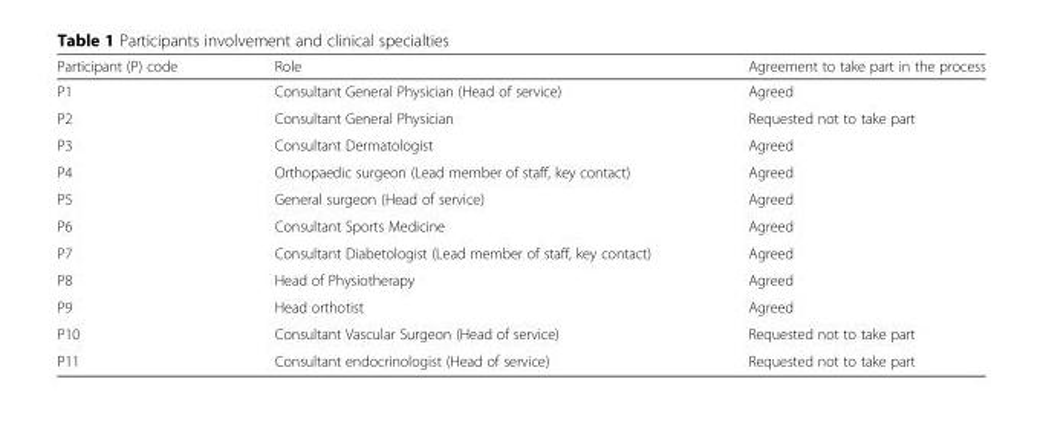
<table><thead><tr><td>Participant (P) code</td><td>Role</td><td>Agreement to take part in the process</td></tr></thead><tbody><tr><td>P1</td><td>Consultant General Physician (Head of service)</td><td>Agreed</td></tr><tr><td>P2</td><td>Consultant General Physician</td><td>Requested not to take part</td></tr><tr><td>P3</td><td>Consultant Dermatologist</td><td>Agreed</td></tr><tr><td>P4</td><td>Orthopaedic surgeon (Lead member of staff, key contact)</td><td>Agreed</td></tr><tr><td>P5</td><td>General surgeon (Head of service)</td><td>Agreed</td></tr><tr><td>P6</td><td>Consultant Sports Medicine</td><td>Agreed</td></tr><tr><td>P7</td><td>Consultant Diabetologist (Lead member of staff, key contact)</td><td>Agreed</td></tr><tr><td>P8</td><td>Head of Physiotherapy</td><td>Agreed</td></tr><tr><td>P9</td><td>Head orthotist</td><td>Agreed</td></tr><tr><td>P10</td><td>Consultant Vascular Surgeon (Head of service)</td><td>Requested not to take part</td></tr><tr><td>P11</td><td>Consultant endocrinologist (Head of service)</td><td>Requested not to take part</td></tr></tbody></table>